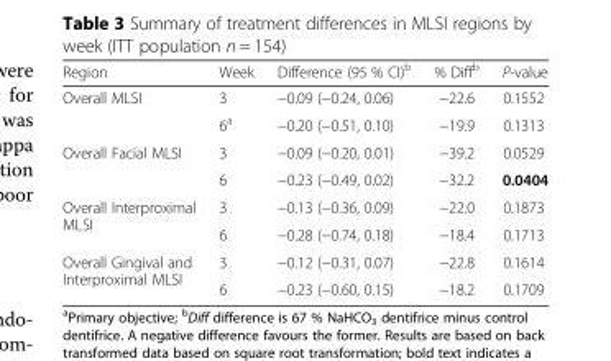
<table><thead><tr><td>Region</td><td>Week</td><td>Difference (95 % CI)<sup>b</sup></td><td>% Diff<sup>b</sup></td><td>P-value</td></tr></thead><tbody><tr><td rowspan="2">Overall MLSI</td><td>3</td><td>−0.09 (−0.24, 0.06)</td><td>−22.6</td><td>0.1552</td></tr><tr><td>6<sup>a</sup></td><td>−0.20 (−0.51, 0.10)</td><td>−19.9</td><td>0.1313</td></tr><tr><td rowspan="2">Overall Facial MLSI</td><td>3</td><td>−0.09 (−0.20, 0.01)</td><td>−39.2</td><td>0.0529</td></tr><tr><td>6</td><td>−0.23 (−0.49, 0.02)</td><td>−32.2</td><td>0.0404</td></tr><tr><td rowspan="2">Overall Interproximal MLSI</td><td>3</td><td>−0.13 (−0.36, 0.09)</td><td>−22.0</td><td>0.1873</td></tr><tr><td>6</td><td>−0.28 (−0.74, 0.18)</td><td>−18.4</td><td>0.1713</td></tr><tr><td rowspan="2">Overall Gingival and Interproximal MLSI</td><td>3</td><td>−0.12 (−0.31, 0.07)</td><td>−22.8</td><td>0.1614</td></tr><tr><td>6</td><td>−0.23 (−0.60, 0.15)</td><td>−18.2</td><td>0.1709</td></tr></tbody></table>